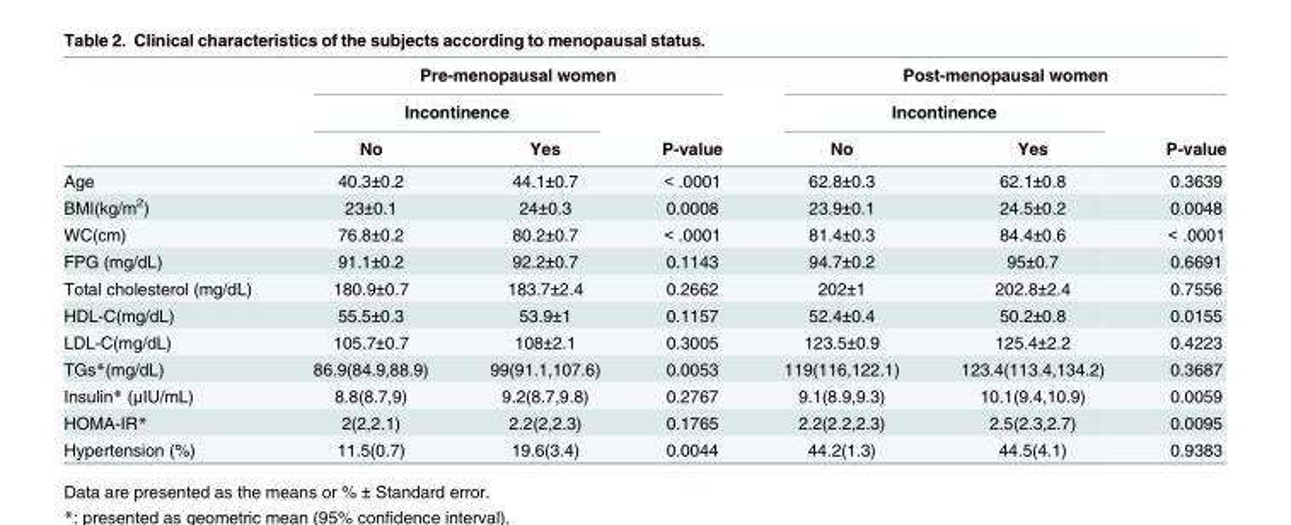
<table><thead><tr><td rowspan="3"></td><td colspan="3">Pre-menopausal women</td><td colspan="3">Post-menopausal women</td></tr><tr><td colspan="2">Incontinence</td><td rowspan="2">P-value</td><td colspan="2">Incontinence</td><td rowspan="2">P-value</td></tr><tr><td>No</td><td>Yes</td><td>No</td><td>Yes</td></tr></thead><tbody><tr><td>Age</td><td>40.3±0.2</td><td>44.1±0.7</td><td>&lt; .0001</td><td>62.8±0.3</td><td>62.1±0.8</td><td>0.3639</td></tr><tr><td>BMI(kg/m<sup>2</sup>)</td><td>23±0.1</td><td>24±0.3</td><td>0.0008</td><td>23.9±0.1</td><td>24.5±0.2</td><td>0.0048</td></tr><tr><td>WC(cm)</td><td>76.8±0.2</td><td>80.2±0.7</td><td>&lt; .0001</td><td>81.4±0.3</td><td>84.4±0.6</td><td>&lt; .0001</td></tr><tr><td>FPG (mg/dL)</td><td>91.1±0.2</td><td>92.2±0.7</td><td>0.1143</td><td>94.7±0.2</td><td>95±0.7</td><td>0.6691</td></tr><tr><td>Total cholesterol (mg/dL)</td><td>180.9±0.7</td><td>183.7±2.4</td><td>0.2662</td><td>202±1</td><td>202.8±2.4</td><td>0.7556</td></tr><tr><td>HDL-C(mg/dL)</td><td>55.5±0.3</td><td>53.9±1</td><td>0.1157</td><td>52.4±0.4</td><td>50.2±0.8</td><td>0.0155</td></tr><tr><td>LDL-C(mg/dL)</td><td>105.7±0.7</td><td>108±2.1</td><td>0.3005</td><td>123.5±0.9</td><td>125.4±2.2</td><td>0.4223</td></tr><tr><td>TGs*(mg/dL)</td><td>86.9(84.9,88.9)</td><td>99(91.1,107.6)</td><td>0.0053</td><td>119(116,122.1)</td><td>123.4(113.4,134.2)</td><td>0.3687</td></tr><tr><td>Insulin* (μIU/mL)</td><td>8.8(8.7,9)</td><td>9.2(8.7,9.8)</td><td>0.2767</td><td>9.1(8.9,9.3)</td><td>10.1(9.4,10.9)</td><td>0.0059</td></tr><tr><td>HOMA-IR*</td><td>2(2,2.1)</td><td>2.2(2,2.3)</td><td>0.1765</td><td>2.2(2.2,2.3)</td><td>2.5(2.3,2.7)</td><td>0.0095</td></tr><tr><td>Hypertension (%)</td><td>11.5(0.7)</td><td>19.6(3.4)</td><td>0.0044</td><td>44.2(1.3)</td><td>44.5(4.1)</td><td>0.9383</td></tr></tbody></table>